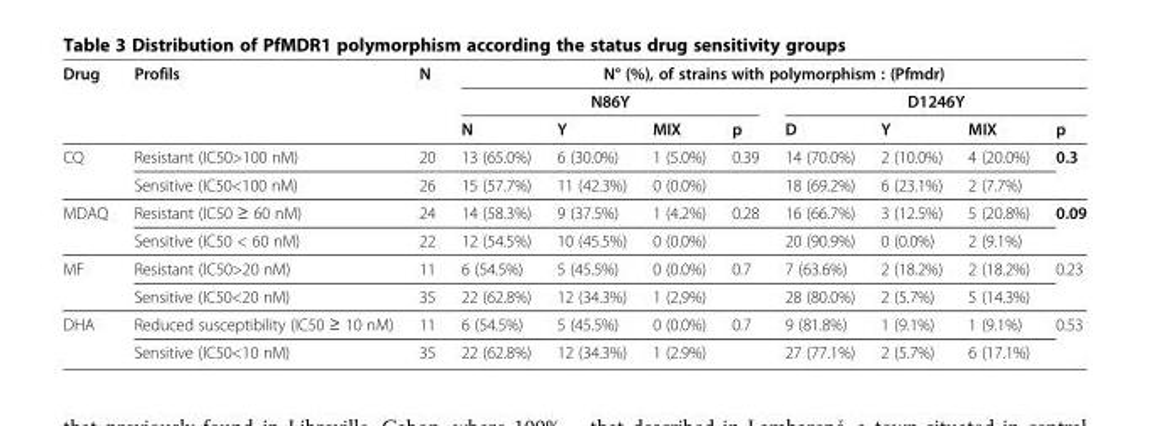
<table><thead><tr><td rowspan="3">Drug</td><td rowspan="3">Profils</td><td rowspan="3">N</td><td colspan="8">N° (%), of strains with polymorphism : (Pfmdr)</td></tr><tr><td colspan="4">N86Y</td><td colspan="4">D1246Y</td></tr><tr><td>N</td><td>Y</td><td>MIX</td><td>p</td><td>D</td><td>Y</td><td>MIX</td><td>p</td></tr></thead><tbody><tr><td rowspan="2">CQ</td><td>Resistant (IC50&gt;100 nM)</td><td>20</td><td>13 (65.0%)</td><td>6 (30.0%)</td><td>1 (5.0%)</td><td>0.39</td><td>14 (70.0%)</td><td>2 (10.0%)</td><td>4 (20.0%)</td><td rowspan="2">0.3</td></tr><tr><td>Sensitive (IC50&lt;100 nM)</td><td>26</td><td>15 (57.7%)</td><td>11 (42.3%)</td><td>0 (0.0%)</td><td></td><td>18 (69.2%)</td><td>6 (23.1%)</td><td>2 (7.7%)</td></tr><tr><td rowspan="2">MDAQ</td><td>Resistant (IC50 ≥ 60 nM)</td><td>24</td><td>14 (58.3%)</td><td>9 (37.5%)</td><td>1 (4.2%)</td><td>0.28</td><td>16 (66.7%)</td><td>3 (12.5%)</td><td>5 (20.8%)</td><td rowspan="2">0.09</td></tr><tr><td>Sensitive (IC50 &lt; 60 nM)</td><td>22</td><td>12 (54.5%)</td><td>10 (45.5%)</td><td>0 (0.0%)</td><td></td><td>20 (90.9%)</td><td>0 (0.0%)</td><td>2 (9.1%)</td></tr><tr><td rowspan="2">MF</td><td>Resistant (IC50&gt;20 nM)</td><td>11</td><td>6 (54.5%)</td><td>5 (45.5%)</td><td>0 (0.0%)</td><td>0.7</td><td>7 (63.6%)</td><td>2 (18.2%)</td><td>2 (18.2%)</td><td rowspan="2">0.23</td></tr><tr><td>Sensitive (IC50&lt;20 nM)</td><td>35</td><td>22 (62.8%)</td><td>12 (34.3%)</td><td>1 (2,9%)</td><td></td><td>28 (80.0%)</td><td>2 (5.7%)</td><td>5 (14.3%)</td></tr><tr><td rowspan="2">DHA</td><td>Reduced susceptibility (IC50 ≥ 10 nM)</td><td>11</td><td>6 (54.5%)</td><td>5 (45.5%)</td><td>0 (0.0%)</td><td>0.7</td><td>9 (81.8%)</td><td>1 (9.1%)</td><td>1 (9.1%)</td><td rowspan="2">0.53</td></tr><tr><td>Sensitive (IC50&lt;10 nM)</td><td>35</td><td>22 (62.8%)</td><td>12 (34.3%)</td><td>1 (2.9%)</td><td></td><td>27 (77.1%)</td><td>2 (5.7%)</td><td>6 (17.1%)</td></tr></tbody></table>